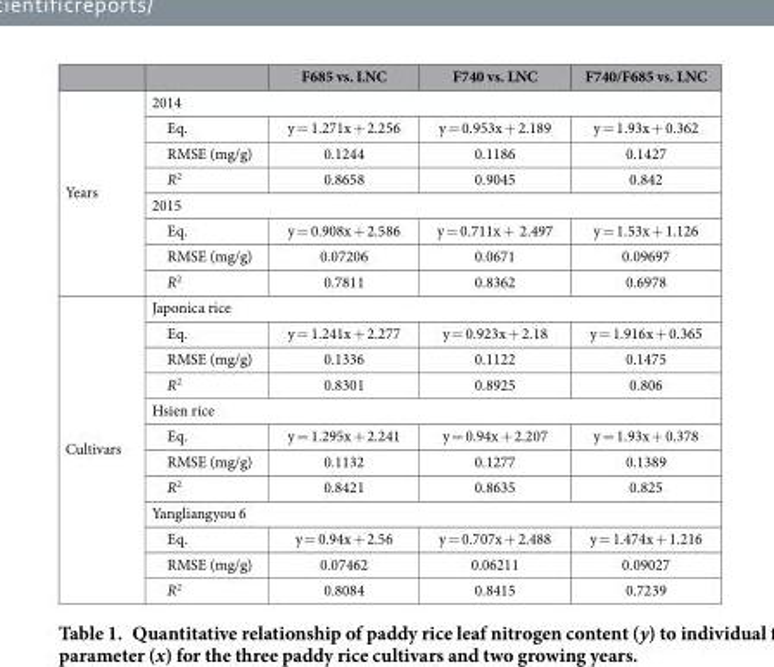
<table><thead><tr><td></td><td></td><td>F685 vs. LNC</td><td>F740 vs. LNC</td><td>F740/F685 vs. LNC</td></tr></thead><tbody><tr><td rowspan="8">Years</td><td colspan="4">2014</td></tr><tr><td>Eq.</td><td>y = 1.271x + 2.256</td><td>y = 0.953x + 2.189</td><td>y = 1.93x + 0.362</td></tr><tr><td>RMSE (mg/g)</td><td>0.1244</td><td>0.1186</td><td>0.1427</td></tr><tr><td>R<sup>2</sup></td><td>0.8658</td><td>0.9045</td><td>0.842</td></tr><tr><td colspan="4">2015</td></tr><tr><td>Eq.</td><td>y = 0.908x + 2.586</td><td>y = 0.711x + 2.497</td><td>y = 1.53x + 1.126</td></tr><tr><td>RMSE (mg/g)</td><td>0.07206</td><td>0.0671</td><td>0.09697</td></tr><tr><td>R<sup>2</sup></td><td>0.7811</td><td>0.8362</td><td>0.6978</td></tr><tr><td rowspan="12">Cultivars</td><td colspan="4">Japonica rice</td></tr><tr><td>Eq.</td><td>y = 1.241x + 2.277</td><td>y = 0.923x + 2.18</td><td>y = 1.916x + 0.365</td></tr><tr><td>RMSE (mg/g)</td><td>0.1336</td><td>0.1122</td><td>0.1475</td></tr><tr><td>R<sup>2</sup></td><td>0.8301</td><td>0.8925</td><td>0.806</td></tr><tr><td colspan="4">Hsien rice</td></tr><tr><td>Eq.</td><td>y = 1.295x + 2.241</td><td>y = 0.94x + 2.207</td><td>y = 1.93x + 0.378</td></tr><tr><td>RMSE (mg/g)</td><td>0.1132</td><td>0.1277</td><td>0.1389</td></tr><tr><td>R<sup>2</sup></td><td>0.8421</td><td>0.8635</td><td>0.825</td></tr><tr><td colspan="4">Yangliangyou 6</td></tr><tr><td>Eq.</td><td>y = 0.94x + 2.56</td><td>y = 0.707x + 2.488</td><td>y = 1.474x + 1.216</td></tr><tr><td>RMSE (mg/g)</td><td>0.07462</td><td>0.06211</td><td>0.09027</td></tr><tr><td>R<sup>2</sup></td><td>0.8084</td><td>0.8415</td><td>0.7239</td></tr></tbody></table>